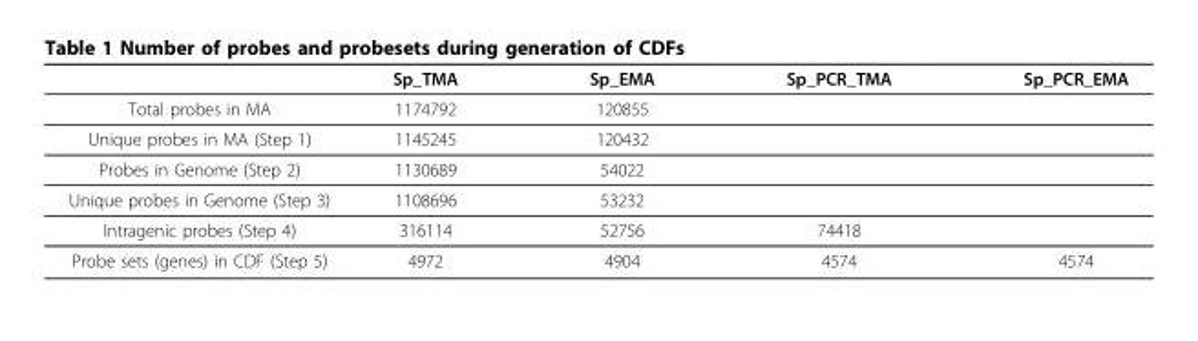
<table><thead><tr><td></td><td>Sp_TMA</td><td>Sp_EMA</td><td>Sp_PCR_TMA</td><td>Sp_PCR_EMA</td></tr></thead><tbody><tr><td>Total probes in MA</td><td>1174792</td><td>120855</td><td></td><td></td></tr><tr><td>Unique probes in MA (Step 1)</td><td>1145245</td><td>120432</td><td></td><td></td></tr><tr><td>Probes in Genome (Step 2)</td><td>1130689</td><td>54022</td><td></td><td></td></tr><tr><td>Unique probes in Genome (Step 3)</td><td>1108696</td><td>53232</td><td></td><td></td></tr><tr><td>Intragenic probes (Step 4)</td><td>316114</td><td>52756</td><td>74418</td><td></td></tr><tr><td>Probe sets (genes) in CDF (Step 5)</td><td>4972</td><td>4904</td><td>4574</td><td>4574</td></tr></tbody></table>